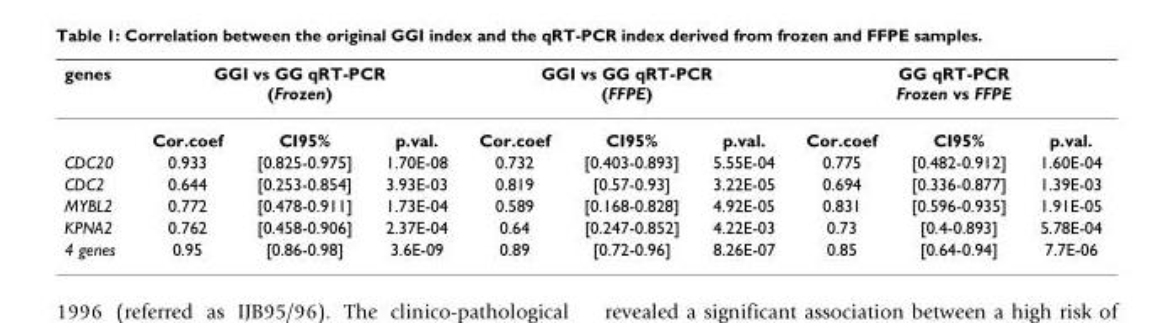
<table><thead><tr><td rowspan="2">genes</td><td colspan="3">GGI vs GG qRT-PCR (Frozen)</td><td colspan="3">GGI vs GG qRT-PCR (FFPE)</td><td colspan="3">GG qRT-PCR Frozen vs FFPE</td></tr><tr><td>Cor.coef</td><td>CI95%</td><td>p.val.</td><td>Cor.coef</td><td>CI95%</td><td>p.val.</td><td>Cor.coef</td><td>CI95%</td><td>p.val.</td></tr></thead><tbody><tr><td>CDC20</td><td>0.933</td><td>[0.825-0.975]</td><td>1.70E-08</td><td>0.732</td><td>[0.403-0.893]</td><td>5.55E-04</td><td>0.775</td><td>[0.482-0.912]</td><td>1.60E-04</td></tr><tr><td>CDC2</td><td>0.644</td><td>[0.253-0.854]</td><td>3.93E-03</td><td>0.819</td><td>[0.57-0.93]</td><td>3.22E-05</td><td>0.694</td><td>[0.336-0.877]</td><td>1.39E-03</td></tr><tr><td>MYBL2</td><td>0.772</td><td>[0.478-0.911]</td><td>1.73E-04</td><td>0.589</td><td>[0.168-0.828]</td><td>4.92E-05</td><td>0.831</td><td>[0.596-0.935]</td><td>1.91E-05</td></tr><tr><td>KPNA2</td><td>0.762</td><td>[0.458-0.906]</td><td>2.37E-04</td><td>0.64</td><td>[0.247-0.852]</td><td>4.22E-03</td><td>0.73</td><td>[0.4-0.893]</td><td>5.78E-04</td></tr><tr><td>4 genes</td><td>0.95</td><td>[0.86-0.98]</td><td>3.6E-09</td><td>0.89</td><td>[0.72-0.96]</td><td>8.26E-07</td><td>0.85</td><td>[0.64-0.94]</td><td>7.7E-06</td></tr></tbody></table>